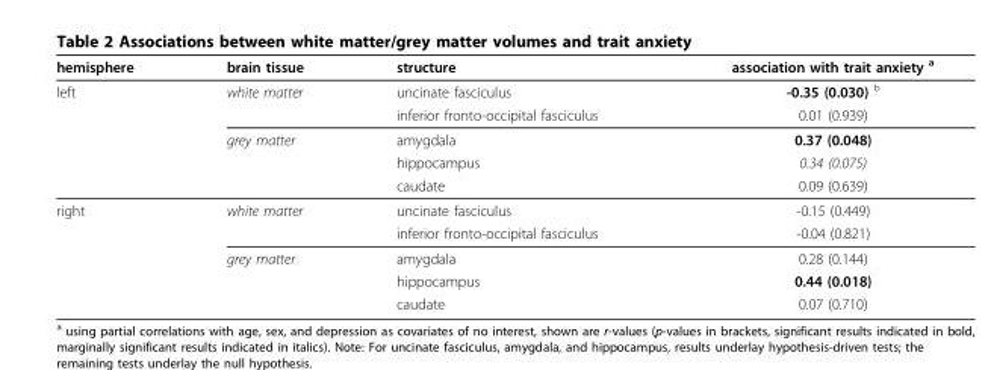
<table><thead><tr><td>hemisphere</td><td>brain tissue</td><td>structure</td><td>association with trait anxiety <sup>a</sup></td></tr></thead><tbody><tr><td rowspan="5">left</td><td>white matter</td><td>uncinate fasciculus</td><td>-0.35 (0.030) <sup>b</sup></td></tr><tr><td></td><td>inferior fronto-occipital fasciculus</td><td>0.01 (0.939)</td></tr><tr><td>grey matter</td><td>amygdala</td><td>0.37 (0.048)</td></tr><tr><td></td><td>hippocampus</td><td>0.34 (0.075)</td></tr><tr><td></td><td>caudate</td><td>0.09 (0.639)</td></tr><tr><td rowspan="5">right</td><td>white matter</td><td>uncinate fasciculus</td><td>-0.15 (0.449)</td></tr><tr><td></td><td>inferior fronto-occipital fasciculus</td><td>-0.04 (0.821)</td></tr><tr><td>grey matter</td><td>amygdala</td><td>0.28 (0.144)</td></tr><tr><td></td><td>hippocampus</td><td>0.44 (0.018)</td></tr><tr><td></td><td>caudate</td><td>0.07 (0.710)</td></tr></tbody></table>